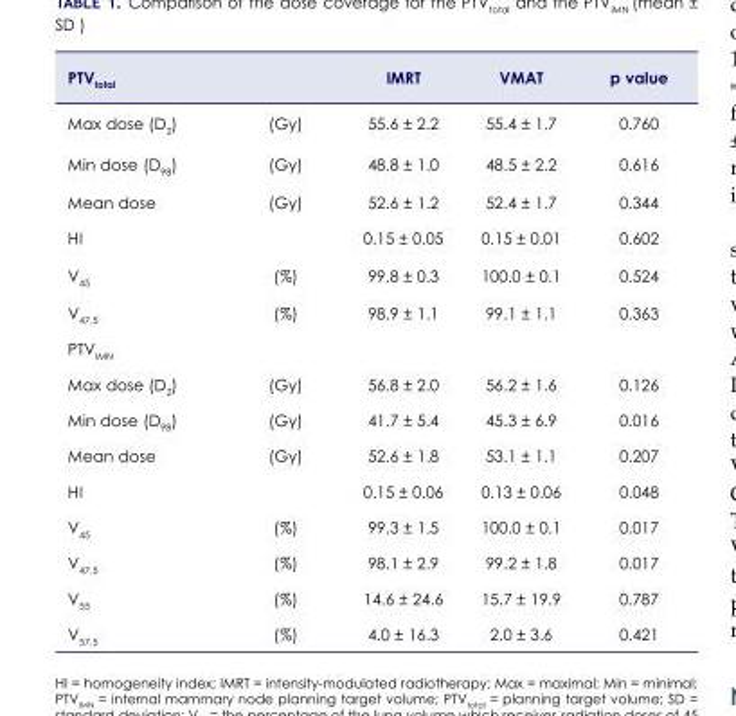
<table><thead><tr><td>PTV<sub>total</sub></td><td></td><td>IMRT</td><td>VMAT</td><td>p value</td></tr></thead><tbody><tr><td>Max dose (D<sub>2</sub>)</td><td>(Gy)</td><td>55.6 ± 2.2</td><td>55.4 ± 1.7</td><td>0.760</td></tr><tr><td>Min dose (D<sub>98</sub>)</td><td>(Gy)</td><td>48.8 ± 1.0</td><td>48.5 ± 2.2</td><td>0.616</td></tr><tr><td>Mean dose</td><td>(Gy)</td><td>52.6 ± 1.2</td><td>52.4 ± 1.7</td><td>0.344</td></tr><tr><td>HI</td><td></td><td>0.15 ± 0.05</td><td>0.15 ± 0.01</td><td>0.602</td></tr><tr><td>V<sub>45</sub></td><td>(%)</td><td>99.8 ± 0.3</td><td>100.0 ± 0.1</td><td>0.524</td></tr><tr><td>V<sub>47.5</sub></td><td>(%)</td><td>98.9 ± 1.1</td><td>99.1 ± 1.1</td><td>0.363</td></tr><tr><td colspan="5">PTV<sub>IMN</sub></td></tr><tr><td>Max dose (D<sub>2</sub>)</td><td>(Gy)</td><td>56.8 ± 2.0</td><td>56.2 ± 1.6</td><td>0.126</td></tr><tr><td>Min dose (D<sub>98</sub>)</td><td>(Gy)</td><td>41.7 ± 5.4</td><td>45.3 ± 6.9</td><td>0.016</td></tr><tr><td>Mean dose</td><td>(Gy)</td><td>52.6 ± 1.8</td><td>53.1 ± 1.1</td><td>0.207</td></tr><tr><td>HI</td><td></td><td>0.15 ± 0.06</td><td>0.13 ± 0.06</td><td>0.048</td></tr><tr><td>V<sub>45</sub></td><td>(%)</td><td>99.3 ± 1.5</td><td>100.0 ± 0.1</td><td>0.017</td></tr><tr><td>V<sub>47.5</sub></td><td>(%)</td><td>98.1 ± 2.9</td><td>99.2 ± 1.8</td><td>0.017</td></tr><tr><td>V<sub>55</sub></td><td>(%)</td><td>14.6 ± 24.6</td><td>15.7 ± 19.9</td><td>0.787</td></tr><tr><td>V<sub>57.5</sub></td><td>(%)</td><td>4.0 ± 16.3</td><td>2.0 ± 3.6</td><td>0.421</td></tr></tbody></table>